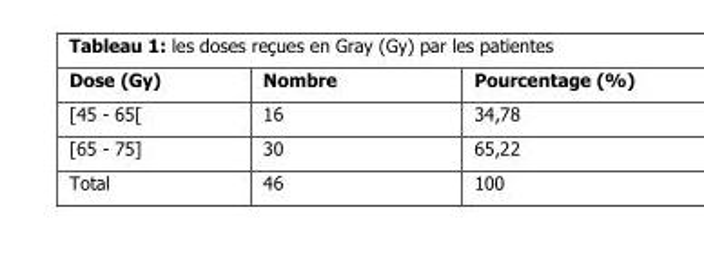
<table><thead><tr><td>Dose (Gy)</td><td>Nombre</td><td>Pourcentage (%)</td></tr></thead><tbody><tr><td>[45 - 65[</td><td>16</td><td>34,78</td></tr><tr><td>[65 - 75]</td><td>30</td><td>65,22</td></tr><tr><td>Total</td><td>46</td><td>100</td></tr></tbody></table>